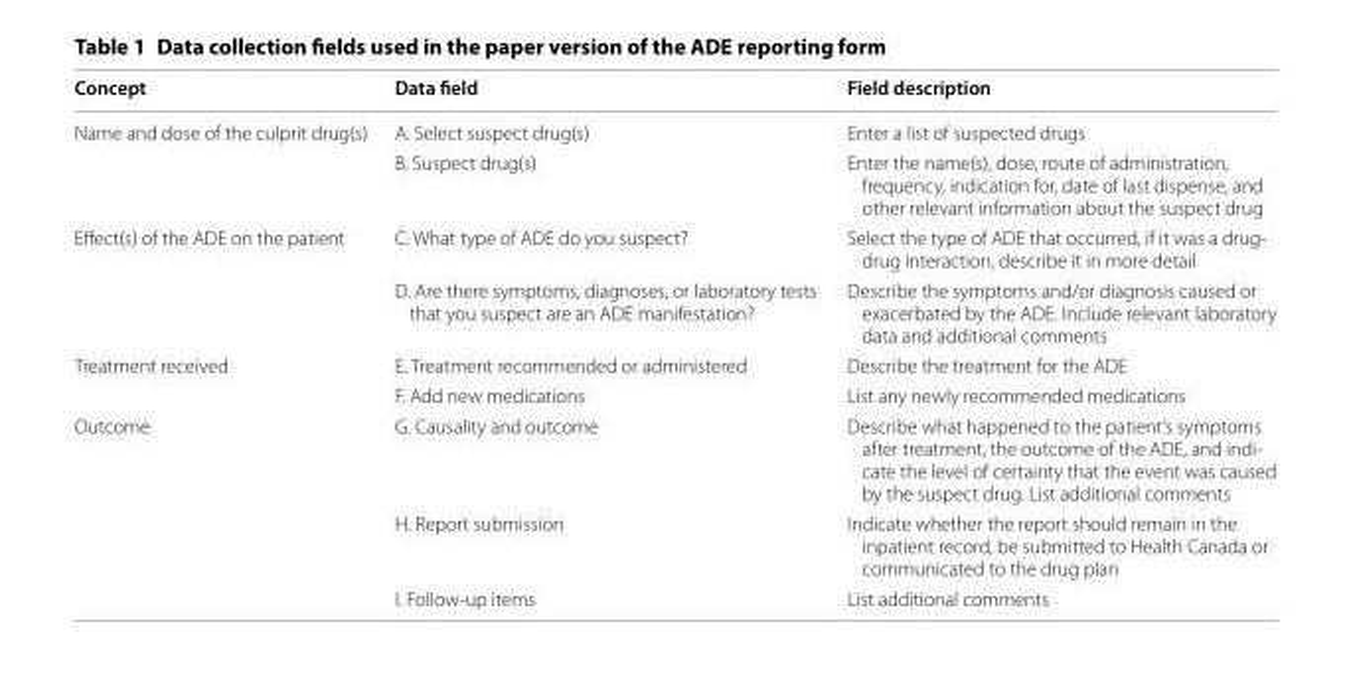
<table><thead><tr><td>Concept</td><td>Data field</td><td>Field description</td></tr></thead><tbody><tr><td rowspan="2">Name and dose of the culprit drug(s)</td><td>A. Select suspect drug(s)</td><td>Enter a list of suspected drugs</td></tr><tr><td>B. Suspect drug(s)</td><td>Enter the name(s), dose, route of administration, frequency, indication for, date of last dispense, and other relevant information about the suspect drug</td></tr><tr><td rowspan="2">Effect(s) of the ADE on the patient</td><td>C. What type of ADE do you suspect?</td><td>Select the type of ADE that occurred, if it was a drug- drug interaction, describe it in more detail</td></tr><tr><td>D. Are there symptoms, diagnoses, or laboratory tests that you suspect are an ADE manifestation?</td><td>Describe the symptoms and/or diagnosis caused or exacerbated by the ADE. Include relevant laboratory data and additional comments</td></tr><tr><td rowspan="2">Treatment received</td><td>E. Treatment recommended or administered</td><td>Describe the treatment for the ADE</td></tr><tr><td>F. Add new medications</td><td>List any newly recommended medications</td></tr><tr><td rowspan="3">Outcome</td><td>G. Causality and outcome</td><td>Describe what happened to the patient’s symptoms after treatment, the outcome of the ADE, and indi- cate the level of certainty that the event was caused by the suspect drug. List additional comments</td></tr><tr><td>H. Report submission</td><td>Indicate whether the report should remain in the inpatient record, be submitted to Health Canada or communicated to the drug plan</td></tr><tr><td>I. Follow-up items</td><td>List additional comments</td></tr></tbody></table>